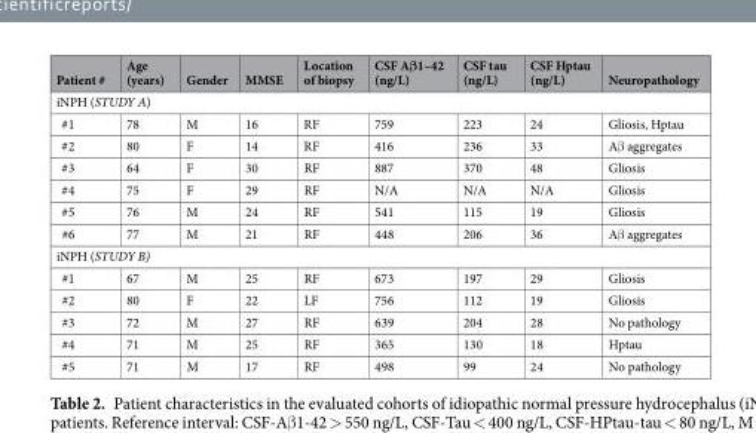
<table><thead><tr><td>Patient #</td><td>Age (years)</td><td>Gender</td><td>MMSE</td><td>Location of biopsy</td><td>CSF Aβ1–42 (ng/L)</td><td>CSF tau (ng/L)</td><td>CSF Hptau (ng/L)</td><td>Neuropathology</td></tr></thead><tbody><tr><td colspan="9">iNPH (STUDY A)</td></tr><tr><td>#1</td><td>78</td><td>M</td><td>16</td><td>RF</td><td>759</td><td>223</td><td>24</td><td>Gliosis, Hptau</td></tr><tr><td>#2</td><td>80</td><td>F</td><td>14</td><td>RF</td><td>416</td><td>236</td><td>33</td><td>Aβ aggregates</td></tr><tr><td>#3</td><td>64</td><td>F</td><td>30</td><td>RF</td><td>887</td><td>370</td><td>48</td><td>Gliosis</td></tr><tr><td>#4</td><td>75</td><td>F</td><td>29</td><td>RF</td><td>N/A</td><td>N/A</td><td>N/A</td><td>Gliosis</td></tr><tr><td>#5</td><td>76</td><td>M</td><td>24</td><td>RF</td><td>541</td><td>115</td><td>19</td><td>Gliosis</td></tr><tr><td>#6</td><td>77</td><td>M</td><td>21</td><td>RF</td><td>448</td><td>206</td><td>36</td><td>Aβ aggregates</td></tr><tr><td colspan="9">iNPH (STUDY B)</td></tr><tr><td>#1</td><td>67</td><td>M</td><td>25</td><td>RF</td><td>673</td><td>197</td><td>29</td><td>Gliosis</td></tr><tr><td>#2</td><td>80</td><td>F</td><td>22</td><td>LF</td><td>756</td><td>112</td><td>19</td><td>Gliosis</td></tr><tr><td>#3</td><td>72</td><td>M</td><td>27</td><td>RF</td><td>639</td><td>204</td><td>28</td><td>No pathology</td></tr><tr><td>#4</td><td>71</td><td>M</td><td>25</td><td>RF</td><td>365</td><td>130</td><td>18</td><td>Hptau</td></tr><tr><td>#5</td><td>71</td><td>M</td><td>17</td><td>RF</td><td>498</td><td>99</td><td>24</td><td>No pathology</td></tr></tbody></table>